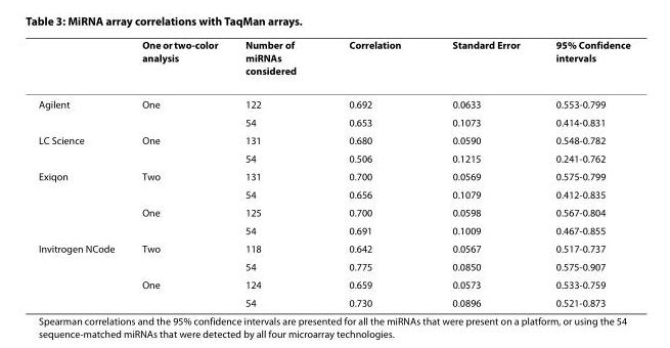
<table><thead><tr><td></td><td>One or two-color analysis</td><td>Number of miRNAs considered</td><td>Correlation</td><td>Standard Error</td><td>95% Confidence intervals</td></tr></thead><tbody><tr><td rowspan="2">Agilent</td><td>One</td><td>122</td><td>0.692</td><td>0.0633</td><td>0.553-0.799</td></tr><tr><td></td><td>54</td><td>0.653</td><td>0.1073</td><td>0.414-0.831</td></tr><tr><td rowspan="2">LC Science</td><td>One</td><td>131</td><td>0.680</td><td>0.0590</td><td>0.548-0.782</td></tr><tr><td></td><td>54</td><td>0.506</td><td>0.1215</td><td>0.241-0.762</td></tr><tr><td rowspan="4">Exiqon</td><td>Two</td><td>131</td><td>0.700</td><td>0.0569</td><td>0.575-0.799</td></tr><tr><td></td><td>54</td><td>0.656</td><td>0.1079</td><td>0.412-0.835</td></tr><tr><td>One</td><td>125</td><td>0.700</td><td>0.0598</td><td>0.567-0.804</td></tr><tr><td></td><td>54</td><td>0.691</td><td>0.1009</td><td>0.467-0.855</td></tr><tr><td rowspan="4">Invitrogen NCode</td><td>Two</td><td>118</td><td>0.642</td><td>0.0567</td><td>0.517-0.737</td></tr><tr><td></td><td>54</td><td>0.775</td><td>0.0850</td><td>0.575-0.907</td></tr><tr><td>One</td><td>124</td><td>0.659</td><td>0.0573</td><td>0.533-0.759</td></tr><tr><td></td><td>54</td><td>0.730</td><td>0.0896</td><td>0.521-0.873</td></tr></tbody></table>